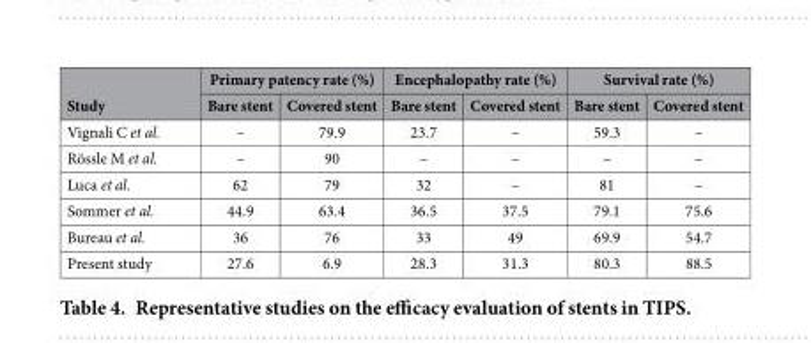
<table><thead><tr><td rowspan="2">Study</td><td colspan="2">Primary patency rate (%)</td><td colspan="2">Encephalopathy rate (%)</td><td colspan="2">Survival rate (%)</td></tr><tr><td>Bare stent</td><td>Covered stent</td><td>Bare stent</td><td>Covered stent</td><td>Bare stent</td><td>Covered stent</td></tr></thead><tbody><tr><td>Vignali C et al.</td><td>–</td><td>79.9</td><td>23.7</td><td>–</td><td>59.3</td><td>–</td></tr><tr><td>Rössle M et al.</td><td>–</td><td>90</td><td>–</td><td>–</td><td>–</td><td>–</td></tr><tr><td>Luca et al.</td><td>62</td><td>79</td><td>32</td><td>–</td><td>81</td><td>–</td></tr><tr><td>Sommer et al.</td><td>44.9</td><td>63.4</td><td>36.5</td><td>37.5</td><td>79.1</td><td>75.6</td></tr><tr><td>Bureau et al.</td><td>36</td><td>76</td><td>33</td><td>49</td><td>69.9</td><td>54.7</td></tr><tr><td>Present study</td><td>27.6</td><td>6.9</td><td>28.3</td><td>31.3</td><td>80.3</td><td>88.5</td></tr></tbody></table>